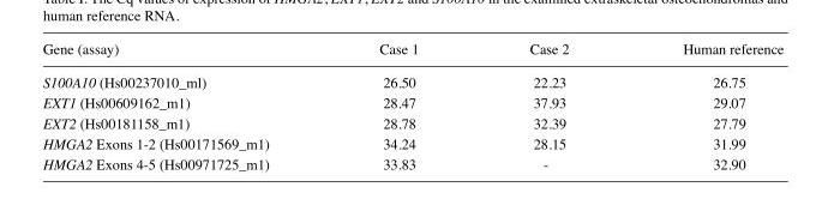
<table><thead><tr><td>Gene (assay)</td><td>Case 1</td><td>Case 2</td><td>human reference</td></tr></thead><tbody><tr><td>S100A10 (Hs00237010_ml)</td><td>26.50</td><td>22.23</td><td>26.75</td></tr><tr><td>EXT1 (Hs00609162_m1)</td><td>28.47</td><td>37.93</td><td>29.07</td></tr><tr><td>EXT2 (Hs00181158_m1)</td><td>28.78</td><td>32.39</td><td>27.79</td></tr><tr><td>HMGA2 Exons 1-2 (Hs00171569_m1)</td><td>34.24</td><td>28.15</td><td>31.99</td></tr><tr><td>HMGA2 Exons 4-5 (Hs00971725_m1)</td><td>33.83</td><td>-</td><td>32.90</td></tr></tbody></table>